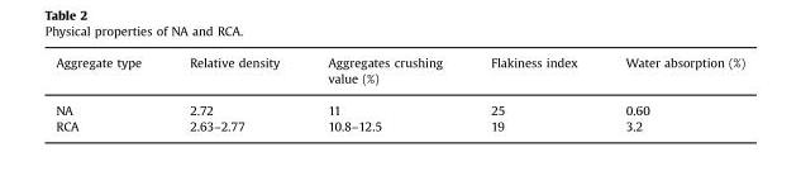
<table><thead><tr><td>Aggregate type</td><td>Relative density</td><td>Aggregates crushing value (%)</td><td>Flakiness index</td><td>Water absorption (%)</td></tr></thead><tbody><tr><td>NA</td><td>2.72</td><td>11</td><td>25</td><td>0.60</td></tr><tr><td>RCA</td><td>2.63–2.77</td><td>10.8–12.5</td><td>19</td><td>3.2</td></tr></tbody></table>